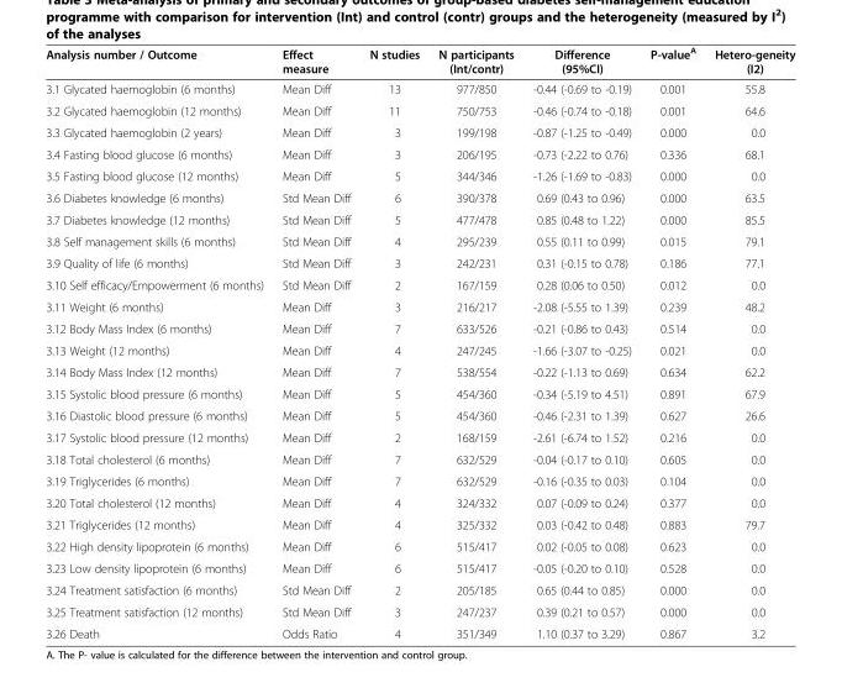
<table><thead><tr><td>Analysis number / Outcome</td><td>Effect measure</td><td>N studies</td><td>N participants (Int/contr)</td><td>Difference (95%CI)</td><td>P-value<sup>A</sup></td><td>Hetero-geneity (I2)</td></tr></thead><tbody><tr><td>3.1 Glycated haemoglobin (6 months)</td><td>Mean Diff</td><td>13</td><td>977/850</td><td>-0.44 (-0.69 to -0.19)</td><td>0.001</td><td>55.8</td></tr><tr><td>3.2 Glycated haemoglobin (12 months)</td><td>Mean Diff</td><td>11</td><td>750/753</td><td>-0.46 (-0.74 to -0.18)</td><td>0.001</td><td>64.6</td></tr><tr><td>3.3 Glycated haemoglobin (2 years)</td><td>Mean Diff</td><td>3</td><td>199/198</td><td>-0.87 (-1.25 to -0.49)</td><td>0.000</td><td>0.0</td></tr><tr><td>3.4 Fasting blood glucose (6 months)</td><td>Mean Diff</td><td>3</td><td>206/195</td><td>-0.73 (-2.22 to 0.76)</td><td>0.336</td><td>68.1</td></tr><tr><td>3.5 Fasting blood glucose (12 months)</td><td>Mean Diff</td><td>5</td><td>344/346</td><td>-1.26 (-1.69 to -0.83)</td><td>0.000</td><td>0.0</td></tr><tr><td>3.6 Diabetes knowledge (6 months)</td><td>Std Mean Diff</td><td>6</td><td>390/378</td><td>0.69 (0.43 to 0.96)</td><td>0.000</td><td>63.5</td></tr><tr><td>3.7 Diabetes knowledge (12 months)</td><td>Std Mean Diff</td><td>5</td><td>477/478</td><td>0.85 (0.48 to 1.22)</td><td>0.000</td><td>85.5</td></tr><tr><td>3.8 Self management skills (6 months)</td><td>Std Mean Diff</td><td>4</td><td>295/239</td><td>0.55 (0.11 to 0.99)</td><td>0.015</td><td>79.1</td></tr><tr><td>3.9 Quality of life (6 months)</td><td>Std Mean Diff</td><td>3</td><td>242/231</td><td>0.31 (-0.15 to 0.78)</td><td>0.186</td><td>77.1</td></tr><tr><td>3.10 Self efficacy/Empowerment (6 months)</td><td>Std Mean Diff</td><td>2</td><td>167/159</td><td>0.28 (0.06 to 0.50)</td><td>0.012</td><td>0.0</td></tr><tr><td>3.11 Weight (6 months)</td><td>Mean Diff</td><td>3</td><td>216/217</td><td>-2.08 (-5.55 to 1.39)</td><td>0.239</td><td>48.2</td></tr><tr><td>3.12 Body Mass Index (6 months)</td><td>Mean Diff</td><td>7</td><td>633/526</td><td>-0.21 (-0.86 to 0.43)</td><td>0.514</td><td>0.0</td></tr><tr><td>3.13 Weight (12 months)</td><td>Mean Diff</td><td>4</td><td>247/245</td><td>-1.66 (-3.07 to -0.25)</td><td>0.021</td><td>0.0</td></tr><tr><td>3.14 Body Mass Index (12 months)</td><td>Mean Diff</td><td>7</td><td>538/554</td><td>-0.22 (-1.13 to 0.69)</td><td>0.634</td><td>62.2</td></tr><tr><td>3.15 Systolic blood pressure (6 months)</td><td>Mean Diff</td><td>5</td><td>454/360</td><td>-0.34 (-5.19 to 4.51)</td><td>0.891</td><td>67.9</td></tr><tr><td>3.16 Diastolic blood pressure (6 months)</td><td>Mean Diff</td><td>5</td><td>454/360</td><td>-0.46 (-2.31 to 1.39)</td><td>0.627</td><td>26.6</td></tr><tr><td>3.17 Systolic blood pressure (12 months)</td><td>Mean Diff</td><td>2</td><td>168/159</td><td>-2.61 (-6.74 to 1.52)</td><td>0.216</td><td>0.0</td></tr><tr><td>3.18 Total cholesterol (6 months)</td><td>Mean Diff</td><td>7</td><td>632/529</td><td>-0.04 (-0.17 to 0.10)</td><td>0.605</td><td>0.0</td></tr><tr><td>3.19 Triglycerides (6 months)</td><td>Mean Diff</td><td>7</td><td>632/529</td><td>-0.16 (-0.35 to 0.03)</td><td>0.104</td><td>0.0</td></tr><tr><td>3.20 Total cholesterol (12 months)</td><td>Mean Diff</td><td>4</td><td>324/332</td><td>0.07 (-0.09 to 0.24)</td><td>0.377</td><td>0.0</td></tr><tr><td>3.21 Triglycerides (12 months)</td><td>Mean Diff</td><td>4</td><td>325/332</td><td>0.03 (-0.42 to 0.48)</td><td>0.883</td><td>79.7</td></tr><tr><td>3.22 High density lipoprotein (6 months)</td><td>Mean Diff</td><td>6</td><td>515/417</td><td>0.02 (-0.05 to 0.08)</td><td>0.623</td><td>0.0</td></tr><tr><td>3.23 Low density lipoprotein (6 months)</td><td>Mean Diff</td><td>6</td><td>515/417</td><td>-0.05 (-0.20 to 0.10)</td><td>0.528</td><td>0.0</td></tr><tr><td>3.24 Treatment satisfaction (6 months)</td><td>Std Mean Diff</td><td>2</td><td>205/185</td><td>0.65 (0.44 to 0.85)</td><td>0.000</td><td>0.0</td></tr><tr><td>3.25 Treatment satisfaction (12 months)</td><td>Std Mean Diff</td><td>3</td><td>247/237</td><td>0.39 (0.21 to 0.57)</td><td>0.000</td><td>0.0</td></tr><tr><td>3.26 Death</td><td>Odds Ratio</td><td>4</td><td>351/349</td><td>1.10 (0.37 to 3.29)</td><td>0.867</td><td>3.2</td></tr></tbody></table>